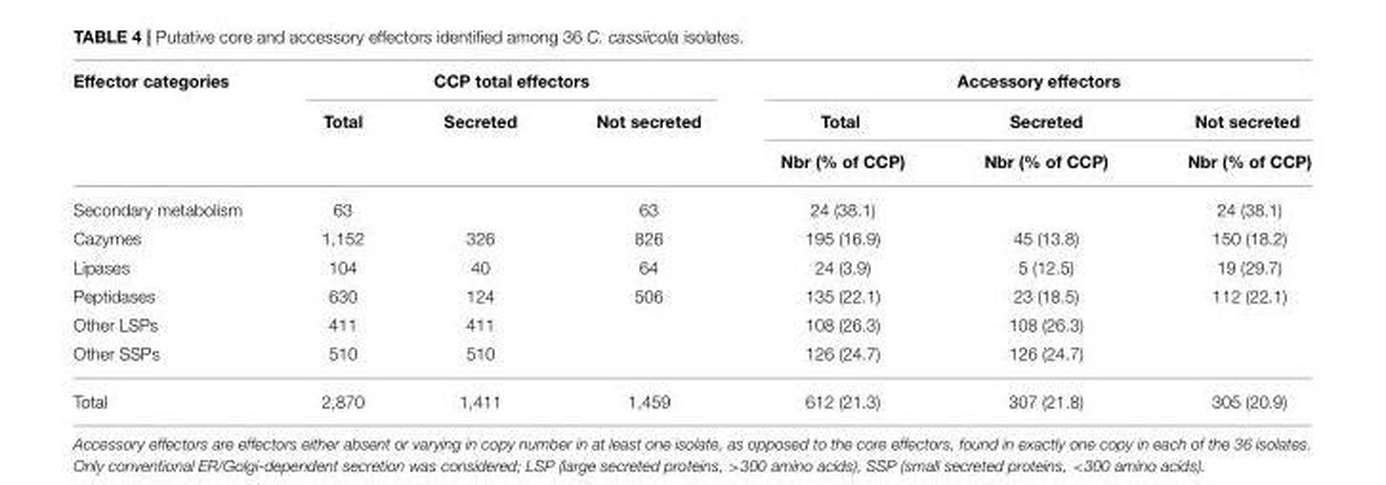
<table><thead><tr><td rowspan="3">Effector categories</td><td colspan="3">CCP total effectors</td><td colspan="3">Accessory effectors</td></tr><tr><td rowspan="2">Total</td><td rowspan="2">Secreted</td><td rowspan="2">Not secreted</td><td rowspan="2">Total Nbr (% of CCP)</td><td rowspan="2">Secreted Nbr (% of CCP)</td><td rowspan="2">Not secreted Nbr (% of CCP)</td></tr><tr></tr></thead><tbody><tr><td>Secondary metabolism</td><td>63</td><td></td><td>63</td><td>24 (38.1)</td><td></td><td>24 (38.1)</td></tr><tr><td>Cazymes</td><td>1,152</td><td>326</td><td>826</td><td>195 (16.9)</td><td>45 (13.8)</td><td>150 (18.2)</td></tr><tr><td>Lipases</td><td>104</td><td>40</td><td>64</td><td>24 (3.9)</td><td>5 (12.5)</td><td>19 (29.7)</td></tr><tr><td>Peptidases</td><td>630</td><td>124</td><td>506</td><td>135 (22.1)</td><td>23 (18.5)</td><td>112 (22.1)</td></tr><tr><td>Other LSPs</td><td>411</td><td>411</td><td></td><td>108 (26.3)</td><td>108 (26.3)</td><td></td></tr><tr><td>Other SSPs</td><td>510</td><td>510</td><td></td><td>126 (24.7)</td><td>126 (24.7)</td><td></td></tr><tr><td>Total</td><td>2,870</td><td>1,411</td><td>1,459</td><td>612 (21.3)</td><td>307 (21.8)</td><td>305 (20.9)</td></tr></tbody></table>